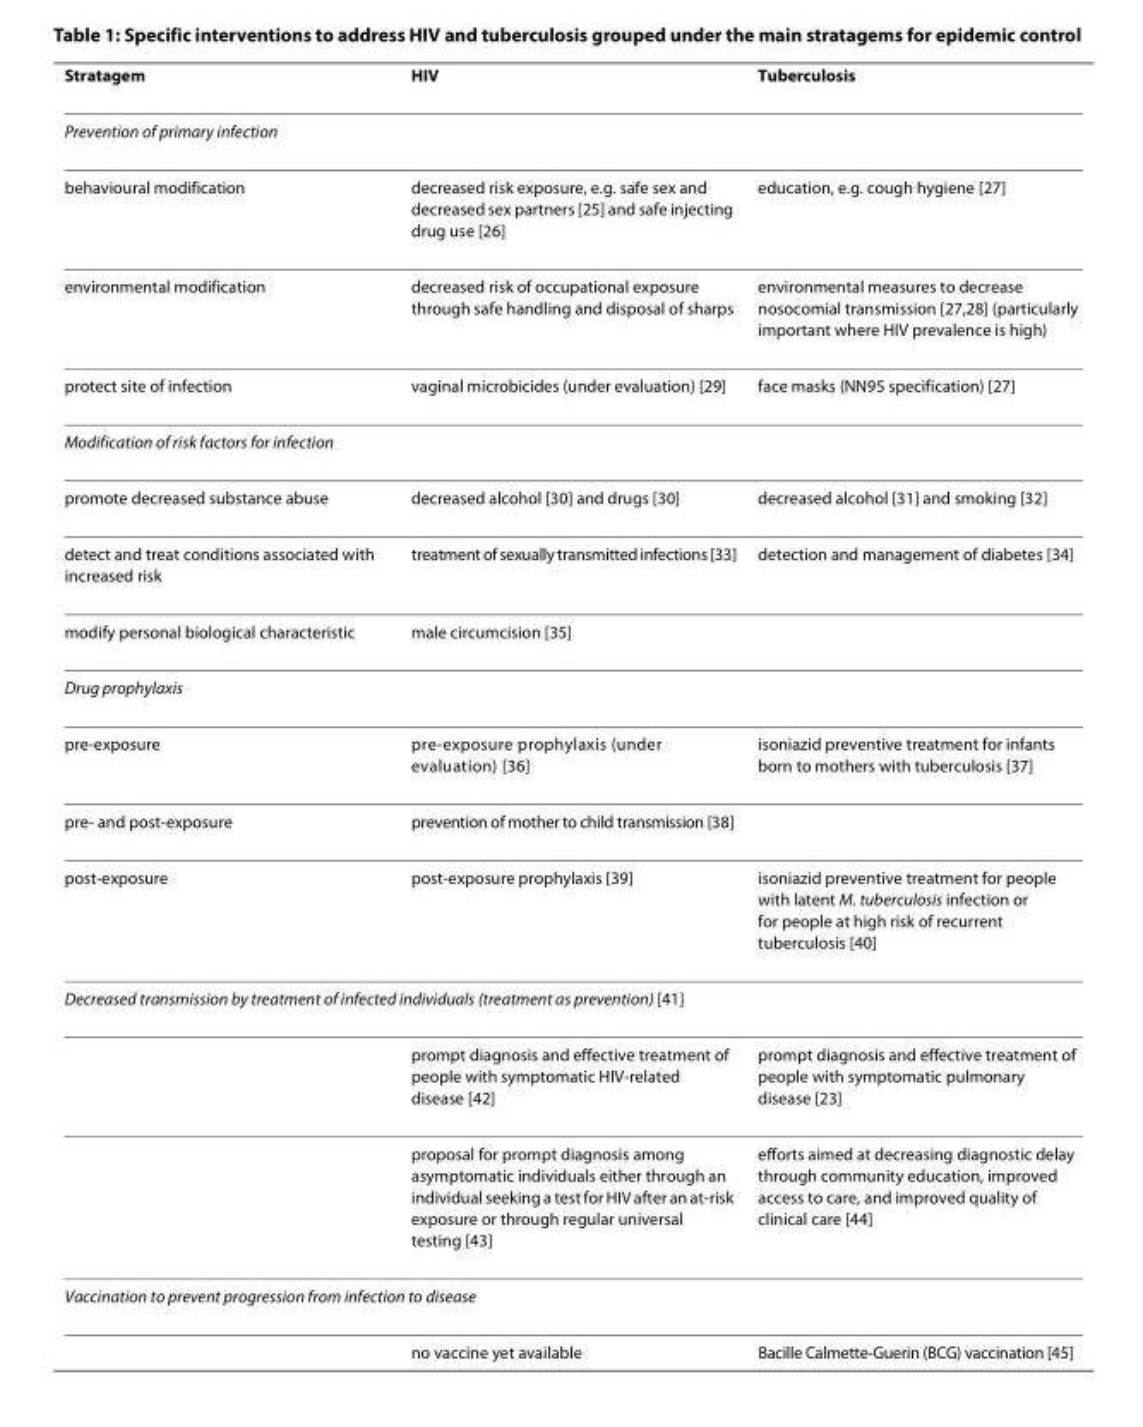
<table><thead><tr><td>Stratagem</td><td>HIV</td><td>Tuberculosis</td></tr></thead><tbody><tr><td colspan="3">Prevention of primary infection</td></tr><tr><td>behavioural modification</td><td>decreased risk exposure, e.g. safe sex and decreased sex partners [25] and safe injecting drug use [26]</td><td>education, e.g. cough hygiene [27]</td></tr><tr><td>environmental modification</td><td>decreased risk of occupational exposure through safe handling and disposal of sharps</td><td>environmental measures to decrease nosocomial transmission [27,28] (particularly important where HIV prevalence is high)</td></tr><tr><td>protect site of infection</td><td>vaginal microbicides (under evaluation) [29]</td><td>face masks (NN95 specification) [27]</td></tr><tr><td colspan="3">Modification of risk factors for infection</td></tr><tr><td>promote decreased substance abuse</td><td>decreased alcohol [30] and drugs [30]</td><td>decreased alcohol [31] and smoking [32]</td></tr><tr><td>detect and treat conditions associated with increased risk</td><td>treatment of sexually transmitted infections [33]</td><td>detection and management of diabetes [34]</td></tr><tr><td>modify personal biological characteristic</td><td>male circumcision [35]</td><td></td></tr><tr><td colspan="3">Drug prophylaxis</td></tr><tr><td>pre-exposure</td><td>pre-exposure prophylaxis (under evaluation) [36]</td><td>isoniazid preventive treatment for infants born to mothers with tuberculosis [37]</td></tr><tr><td>pre- and post-exposure</td><td>prevention of mother to child transmission [38]</td><td></td></tr><tr><td>post-exposure</td><td>post-exposure prophylaxis [39]</td><td>isoniazid preventive treatment for people with latent M. tuberculosis infection or for people at high risk of recurrent tuberculosis [40]</td></tr><tr><td colspan="3">Decreased transmission by treatment of infected individuals (treatment as prevention) [41]</td></tr><tr><td></td><td>prompt diagnosis and effective treatment of people with symptomatic HIV-related disease [42]</td><td>prompt diagnosis and effective treatment of people with symptomatic pulmonary disease [23]</td></tr><tr><td></td><td>proposal for prompt diagnosis among asymptomatic individuals either through an individual seeking a test for HIV after an at-risk exposure or through regular universal testing [43]</td><td>efforts aimed at decreasing diagnostic delay through community education, improved access to care, and improved quality of clinical care [44]</td></tr><tr><td colspan="3">Vaccination to prevent progression from infection to disease</td></tr><tr><td></td><td>no vaccine yet available</td><td>Bacille Calmette-Guerin (BCG) vaccination [45]</td></tr></tbody></table>